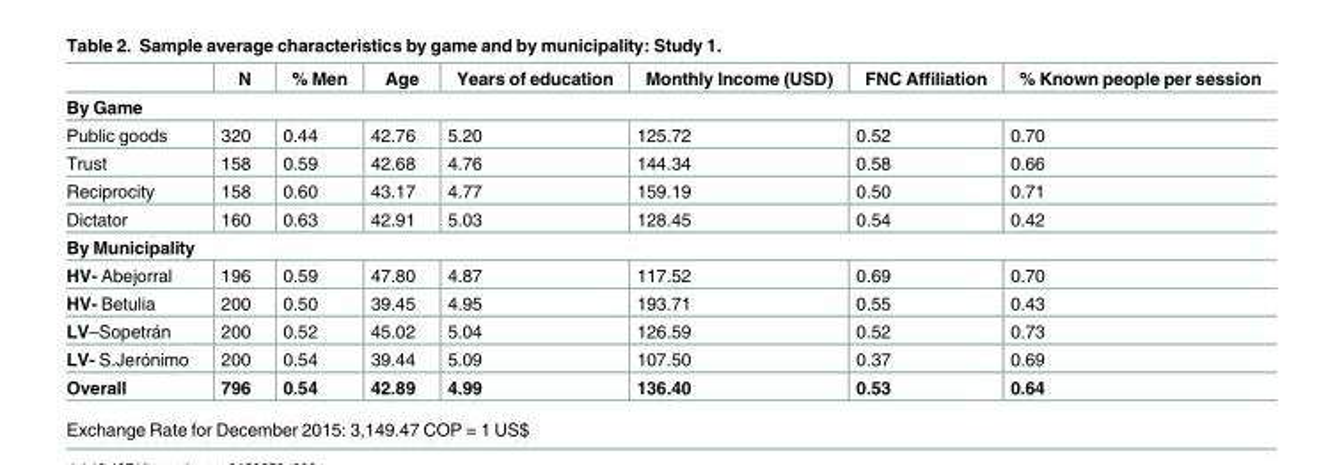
<table><thead><tr><td></td><td>N</td><td>% Men</td><td>Age</td><td>Years of education</td><td>Monthly Income (USD)</td><td>FNC Affiliation</td><td>% Known people per session</td></tr></thead><tbody><tr><td colspan="8">By Game</td></tr><tr><td>Public goods</td><td>320</td><td>0.44</td><td>42.76</td><td>5.20</td><td>125.72</td><td>0.52</td><td>0.70</td></tr><tr><td>Trust</td><td>158</td><td>0.59</td><td>42.68</td><td>4.76</td><td>144.34</td><td>0.58</td><td>0.66</td></tr><tr><td>Reciprocity</td><td>158</td><td>0.60</td><td>43.17</td><td>4.77</td><td>159.19</td><td>0.50</td><td>0.71</td></tr><tr><td>Dictator</td><td>160</td><td>0.63</td><td>42.91</td><td>5.03</td><td>128.45</td><td>0.54</td><td>0.42</td></tr><tr><td colspan="8">By Municipality</td></tr><tr><td>HV- Abejorral</td><td>196</td><td>0.59</td><td>47.80</td><td>4.87</td><td>117.52</td><td>0.69</td><td>0.70</td></tr><tr><td>HV- Betulia</td><td>200</td><td>0.50</td><td>39.45</td><td>4.95</td><td>193.71</td><td>0.55</td><td>0.43</td></tr><tr><td>LV–Sopetrán</td><td>200</td><td>0.52</td><td>45.02</td><td>5.04</td><td>126.59</td><td>0.52</td><td>0.73</td></tr><tr><td>LV- S.Jerónimo</td><td>200</td><td>0.54</td><td>39.44</td><td>5.09</td><td>107.50</td><td>0.37</td><td>0.69</td></tr><tr><td>Overall</td><td>796</td><td>0.54</td><td>42.89</td><td>4.99</td><td>136.40</td><td>0.53</td><td>0.64</td></tr></tbody></table>